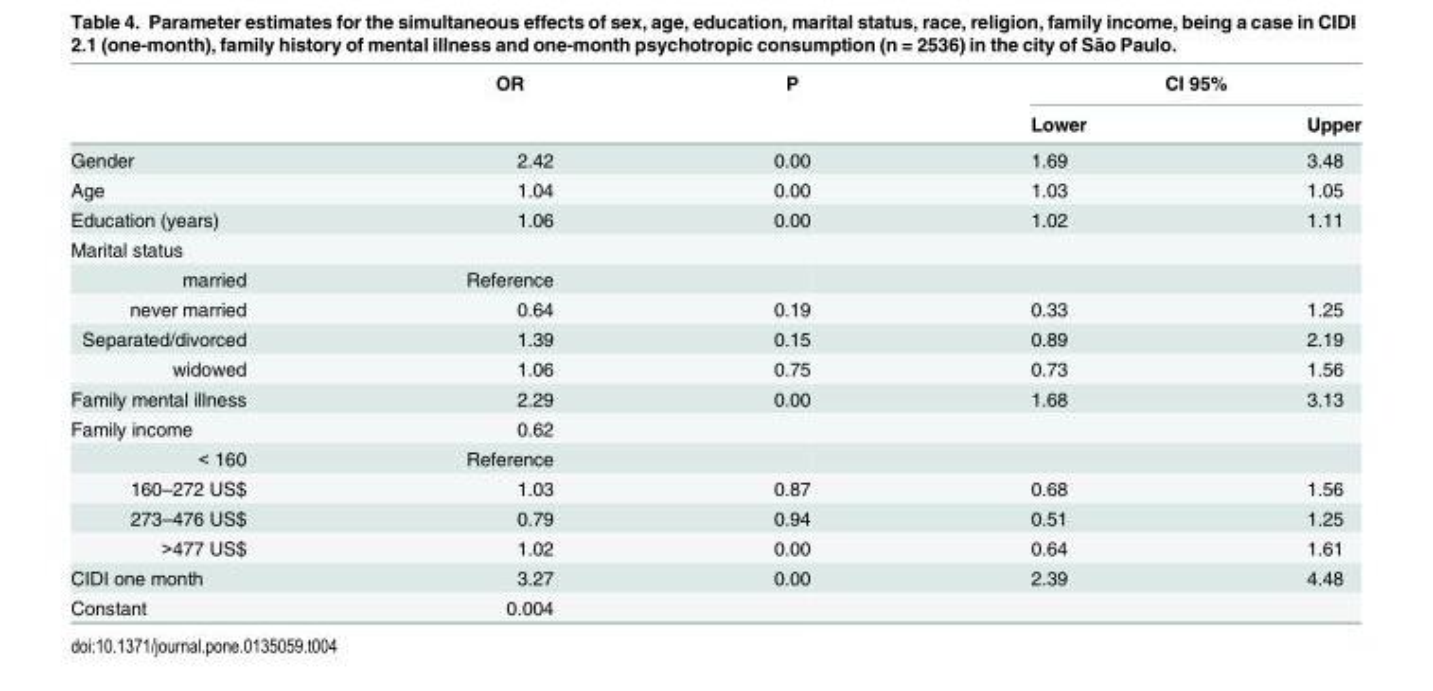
<table><thead><tr><td rowspan="2"></td><td rowspan="2">OR</td><td rowspan="2">P</td><td colspan="2">CI 95%</td></tr><tr><td>Lower</td><td>Upper</td></tr></thead><tbody><tr><td>Gender</td><td>2.42</td><td>0.00</td><td>1.69</td><td>3.48</td></tr><tr><td>Age</td><td>1.04</td><td>0.00</td><td>1.03</td><td>1.05</td></tr><tr><td>Education (years)</td><td>1.06</td><td>0.00</td><td>1.02</td><td>1.11</td></tr><tr><td colspan="5">Marital status</td></tr><tr><td>married</td><td>Reference</td><td></td><td></td><td></td></tr><tr><td>never married</td><td>0.64</td><td>0.19</td><td>0.33</td><td>1.25</td></tr><tr><td>Separated/divorced</td><td>1.39</td><td>0.15</td><td>0.89</td><td>2.19</td></tr><tr><td>widowed</td><td>1.06</td><td>0.75</td><td>0.73</td><td>1.56</td></tr><tr><td>Family mental illness</td><td>2.29</td><td>0.00</td><td>1.68</td><td>3.13</td></tr><tr><td>Family income</td><td>0.62</td><td></td><td></td><td></td></tr><tr><td>&lt; 160</td><td>Reference</td><td></td><td></td><td></td></tr><tr><td>160–272 US$</td><td>1.03</td><td>0.87</td><td>0.68</td><td>1.56</td></tr><tr><td>273–476 US$</td><td>0.79</td><td>0.94</td><td>0.51</td><td>1.25</td></tr><tr><td>&gt;477 US$</td><td>1.02</td><td>0.00</td><td>0.64</td><td>1.61</td></tr><tr><td>CIDI one month</td><td>3.27</td><td>0.00</td><td>2.39</td><td>4.48</td></tr><tr><td>Constant</td><td>0.004</td><td></td><td></td><td></td></tr></tbody></table>